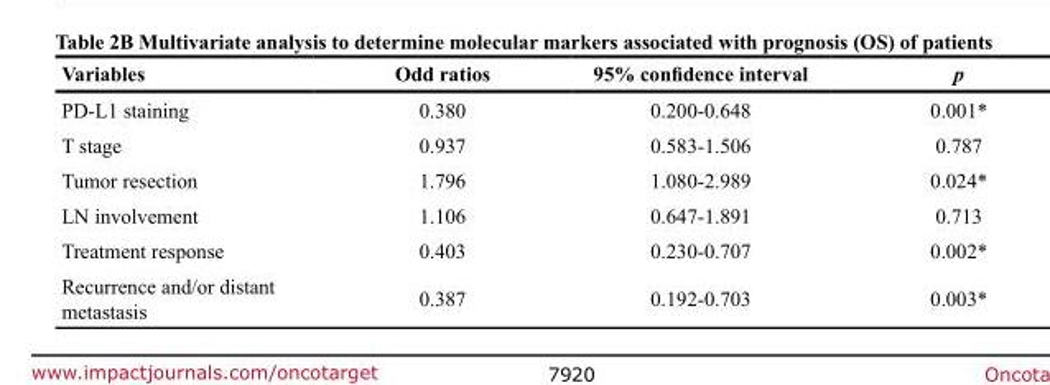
<table><thead><tr><td>Variables</td><td>Odd ratios</td><td>95% confi dence interval</td><td>p</td></tr></thead><tbody><tr><td>PD-L1 staining</td><td>0.380</td><td>0.200-0.648</td><td>0.001*</td></tr><tr><td>T stage</td><td>0.937</td><td>0.583-1.506</td><td>0.787</td></tr><tr><td>Tumor resection</td><td>1.796</td><td>1.080-2.989</td><td>0.024*</td></tr><tr><td>LN involvement</td><td>1.106</td><td>0.647-1.891</td><td>0.713</td></tr><tr><td>Treatment response</td><td>0.403</td><td>0.230-0.707</td><td>0.002*</td></tr><tr><td>Recurrence and/or distant metastasis</td><td>0.387</td><td>0.192-0.703</td><td>0.003*</td></tr></tbody></table>